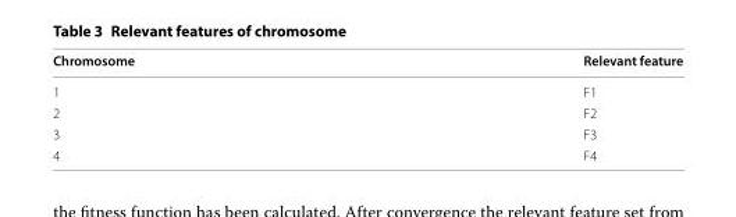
<table><thead><tr><td>Chromosome</td><td>Relevant feature</td></tr></thead><tbody><tr><td>1</td><td>F1</td></tr><tr><td>2</td><td>F2</td></tr><tr><td>3</td><td>F3</td></tr><tr><td>4</td><td>F4</td></tr></tbody></table>